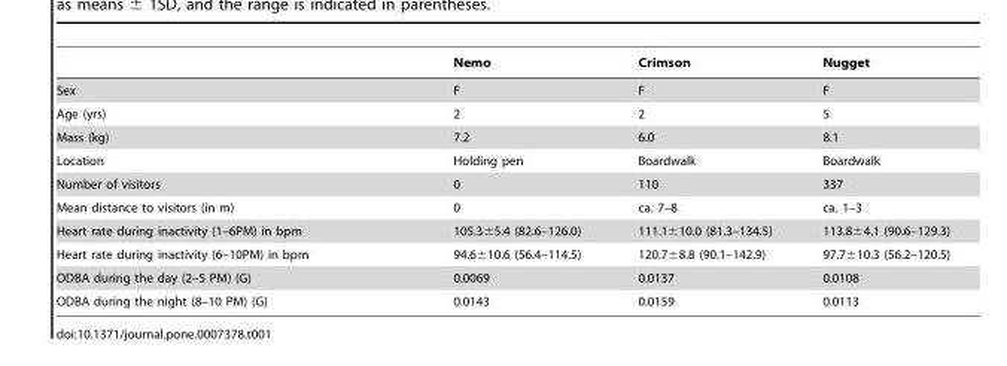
<table><thead><tr><td></td><td>Nemo</td><td>Crimson</td><td>Nugget</td></tr></thead><tbody><tr><td>Sex</td><td>F</td><td>F</td><td>F</td></tr><tr><td>Age (yrs)</td><td>2</td><td>2</td><td>5</td></tr><tr><td>Mass (kg)</td><td>7.2</td><td>6.0</td><td>8.1</td></tr><tr><td>Location</td><td>Holding pen</td><td>Boardwalk</td><td>Boardwalk</td></tr><tr><td>Number of visitors</td><td>0</td><td>110</td><td>337</td></tr><tr><td>Mean distance to visitors (in m)</td><td>0</td><td>ca. 7–8</td><td>ca. 1–3</td></tr><tr><td>Heart rate during inactivity (1–6PM) in bpm</td><td>105.3±5.4 (82.6–126.0)</td><td>111.1±10.0 (81.3–134.5)</td><td>113.8±4.1 (90.6–129.3)</td></tr><tr><td>Heart rate during inactivity (6–10PM) in bpm</td><td>94.6±10.6 (56.4–114.5)</td><td>120.7±8.8 (90.1–142.9)</td><td>97.7±10.3 (56.2–120.5)</td></tr><tr><td>ODBA during the day (2–5 PM) (G)</td><td>0.0069</td><td>0.0137</td><td>0.0108</td></tr><tr><td>ODBA during the night (8–10 PM) (G)</td><td>0.0143</td><td>0.0159</td><td>0.0113</td></tr></tbody></table>